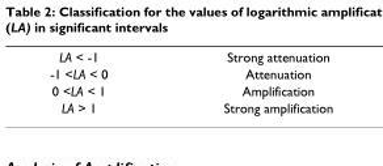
<table><tbody><tr><td>LA &lt; -1</td><td>Strong attenuation</td></tr><tr><td>-1 &lt;LA &lt; 0</td><td>Attenuation</td></tr><tr><td>0 &lt;LA &lt; 1</td><td>Amplification</td></tr><tr><td>LA &gt; 1</td><td>Strong amplification</td></tr></tbody></table>